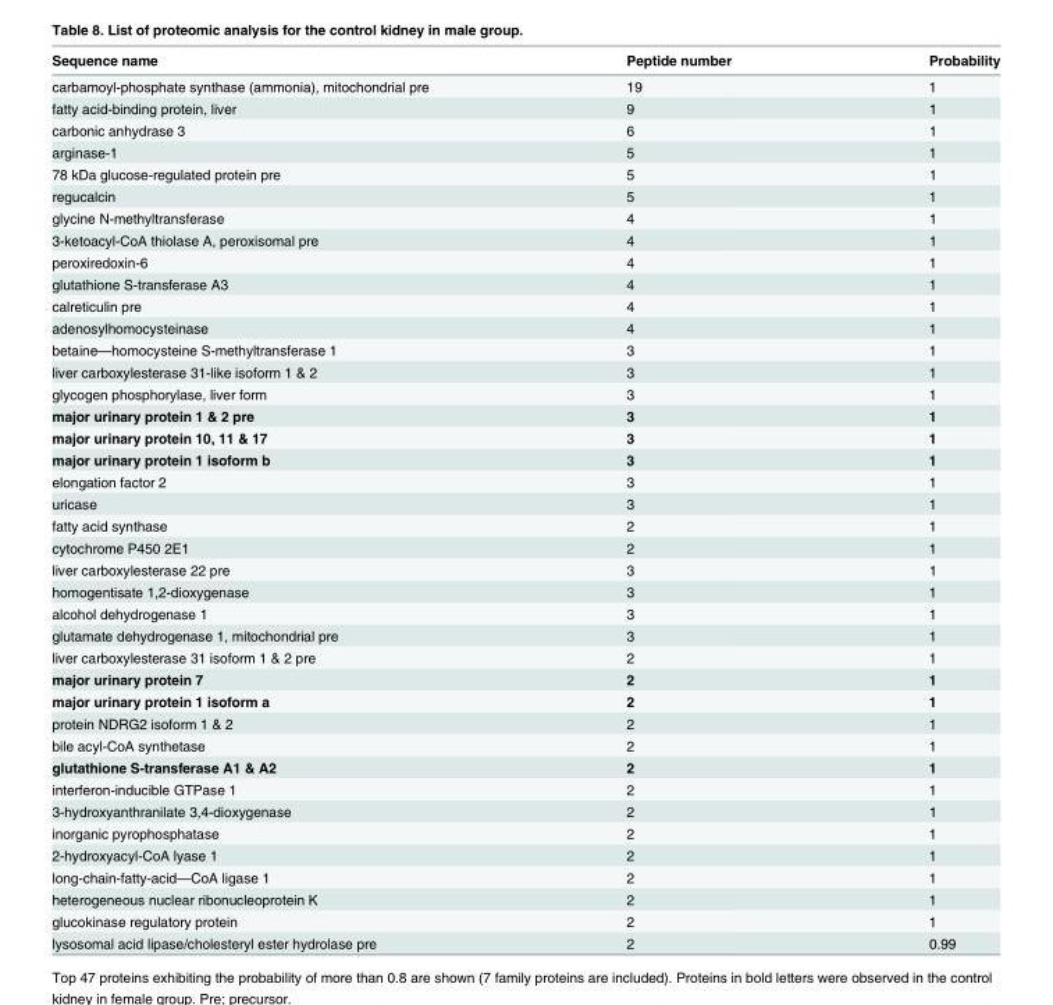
<table><thead><tr><td>Sequence name</td><td>Peptide number</td><td>Probability</td></tr></thead><tbody><tr><td>carbamoyl-phosphate synthase (ammonia), mitochondrial pre</td><td>19</td><td>1</td></tr><tr><td>fatty acid-binding protein, liver</td><td>9</td><td>1</td></tr><tr><td>carbonic anhydrase 3</td><td>6</td><td>1</td></tr><tr><td>arginase-1</td><td>5</td><td>1</td></tr><tr><td>78 kDa glucose-regulated protein pre</td><td>5</td><td>1</td></tr><tr><td>regucalcin</td><td>5</td><td>1</td></tr><tr><td>glycine N-methyltransferase</td><td>4</td><td>1</td></tr><tr><td>3-ketoacyl-CoA thiolase A, peroxisomal pre</td><td>4</td><td>1</td></tr><tr><td>peroxiredoxin-6</td><td>4</td><td>1</td></tr><tr><td>glutathione S-transferase A3</td><td>4</td><td>1</td></tr><tr><td>calreticulin pre</td><td>4</td><td>1</td></tr><tr><td>adenosylhomocysteinase</td><td>4</td><td>1</td></tr><tr><td>betaine—homocysteine S-methyltransferase 1</td><td>3</td><td>1</td></tr><tr><td>liver carboxylesterase 31-like isoform 1 &amp; 2</td><td>3</td><td>1</td></tr><tr><td>glycogen phosphorylase, liver form</td><td>3</td><td>1</td></tr><tr><td>major urinary protein 1 &amp; 2 pre</td><td>3</td><td>1</td></tr><tr><td>major urinary protein 10, 11 &amp; 17</td><td>3</td><td>1</td></tr><tr><td>major urinary protein 1 isoform b</td><td>3</td><td>1</td></tr><tr><td>elongation factor 2</td><td>3</td><td>1</td></tr><tr><td>uricase</td><td>3</td><td>1</td></tr><tr><td>fatty acid synthase</td><td>2</td><td>1</td></tr><tr><td>cytochrome P450 2E1</td><td>2</td><td>1</td></tr><tr><td>liver carboxylesterase 22 pre</td><td>3</td><td>1</td></tr><tr><td>homogentisate 1,2-dioxygenase</td><td>3</td><td>1</td></tr><tr><td>alcohol dehydrogenase 1</td><td>3</td><td>1</td></tr><tr><td>glutamate dehydrogenase 1, mitochondrial pre</td><td>3</td><td>1</td></tr><tr><td>liver carboxylesterase 31 isoform 1 &amp; 2 pre</td><td>2</td><td>1</td></tr><tr><td>major urinary protein 7</td><td>2</td><td>1</td></tr><tr><td>major urinary protein 1 isoform a</td><td>2</td><td>1</td></tr><tr><td>protein NDRG2 isoform 1 &amp; 2</td><td>2</td><td>1</td></tr><tr><td>bile acyl-CoA synthetase</td><td>2</td><td>1</td></tr><tr><td>glutathione S-transferase A1 &amp; A2</td><td>2</td><td>1</td></tr><tr><td>interferon-inducible GTPase 1</td><td>2</td><td>1</td></tr><tr><td>3-hydroxyanthranilate 3,4-dioxygenase</td><td>2</td><td>1</td></tr><tr><td>inorganic pyrophosphatase</td><td>2</td><td>1</td></tr><tr><td>2-hydroxyacyl-CoA lyase 1</td><td>2</td><td>1</td></tr><tr><td>long-chain-fatty-acid—CoA ligase 1</td><td>2</td><td>1</td></tr><tr><td>heterogeneous nuclear ribonucleoprotein K</td><td>2</td><td>1</td></tr><tr><td>glucokinase regulatory protein</td><td>2</td><td>1</td></tr><tr><td>lysosomal acid lipase/cholesteryl ester hydrolase pre</td><td>2</td><td>0.99</td></tr></tbody></table>